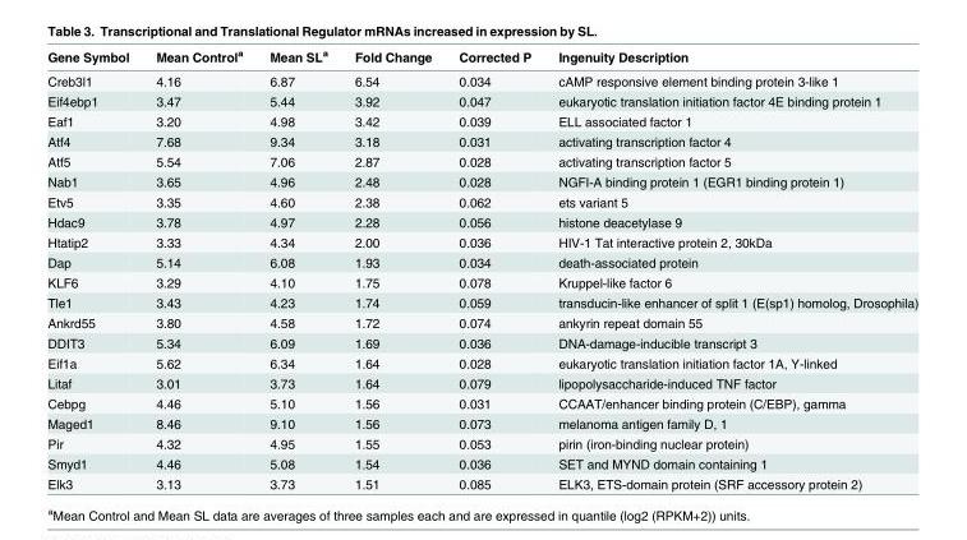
<table><thead><tr><td>Gene Symbol</td><td>Mean Control<sup>a</sup></td><td>Mean SL<sup>a</sup></td><td>Fold Change</td><td>Corrected P</td><td>Ingenuity Description</td></tr></thead><tbody><tr><td>Creb3l1</td><td>4.16</td><td>6.87</td><td>6.54</td><td>0.034</td><td>cAMP responsive element binding protein 3-like 1</td></tr><tr><td>Eif4ebp1</td><td>3.47</td><td>5.44</td><td>3.92</td><td>0.047</td><td>eukaryotic translation initiation factor 4E binding protein 1</td></tr><tr><td>Eaf1</td><td>3.20</td><td>4.98</td><td>3.42</td><td>0.039</td><td>ELL associated factor 1</td></tr><tr><td>Atf4</td><td>7.68</td><td>9.34</td><td>3.18</td><td>0.031</td><td>activating transcription factor 4</td></tr><tr><td>Atf5</td><td>5.54</td><td>7.06</td><td>2.87</td><td>0.028</td><td>activating transcription factor 5</td></tr><tr><td>Nab1</td><td>3.65</td><td>4.96</td><td>2.48</td><td>0.028</td><td>NGFI-A binding protein 1 (EGR1 binding protein 1)</td></tr><tr><td>Etv5</td><td>3.35</td><td>4.60</td><td>2.38</td><td>0.062</td><td>ets variant 5</td></tr><tr><td>Hdac9</td><td>3.78</td><td>4.97</td><td>2.28</td><td>0.056</td><td>histone deacetylase 9</td></tr><tr><td>Htatip2</td><td>3.33</td><td>4.34</td><td>2.00</td><td>0.036</td><td>HIV-1 Tat interactive protein 2, 30kDa</td></tr><tr><td>Dap</td><td>5.14</td><td>6.08</td><td>1.93</td><td>0.034</td><td>death-associated protein</td></tr><tr><td>KLF6</td><td>3.29</td><td>4.10</td><td>1.75</td><td>0.078</td><td>Kruppel-like factor 6</td></tr><tr><td>Tle1</td><td>3.43</td><td>4.23</td><td>1.74</td><td>0.059</td><td>transducin-like enhancer of split 1 (E(sp1) homolog, Drosophila)</td></tr><tr><td>Ankrd55</td><td>3.80</td><td>4.58</td><td>1.72</td><td>0.074</td><td>ankyrin repeat domain 55</td></tr><tr><td>DDIT3</td><td>5.34</td><td>6.09</td><td>1.69</td><td>0.036</td><td>DNA-damage-inducible transcript 3</td></tr><tr><td>Eif1a</td><td>5.62</td><td>6.34</td><td>1.64</td><td>0.028</td><td>eukaryotic translation initiation factor 1A, Y-linked</td></tr><tr><td>Litaf</td><td>3.01</td><td>3.73</td><td>1.64</td><td>0.079</td><td>lipopolysaccharide-induced TNF factor</td></tr><tr><td>Cebpg</td><td>4.46</td><td>5.10</td><td>1.56</td><td>0.031</td><td>CCAAT/enhancer binding protein (C/EBP), gamma</td></tr><tr><td>Maged1</td><td>8.46</td><td>9.10</td><td>1.56</td><td>0.073</td><td>melanoma antigen family D, 1</td></tr><tr><td>Pir</td><td>4.32</td><td>4.95</td><td>1.55</td><td>0.053</td><td>pirin (iron-binding nuclear protein)</td></tr><tr><td>Smyd1</td><td>4.46</td><td>5.08</td><td>1.54</td><td>0.036</td><td>SET and MYND domain containing 1</td></tr><tr><td>Elk3</td><td>3.13</td><td>3.73</td><td>1.51</td><td>0.085</td><td>ELK3, ETS-domain protein (SRF accessory protein 2)</td></tr></tbody></table>